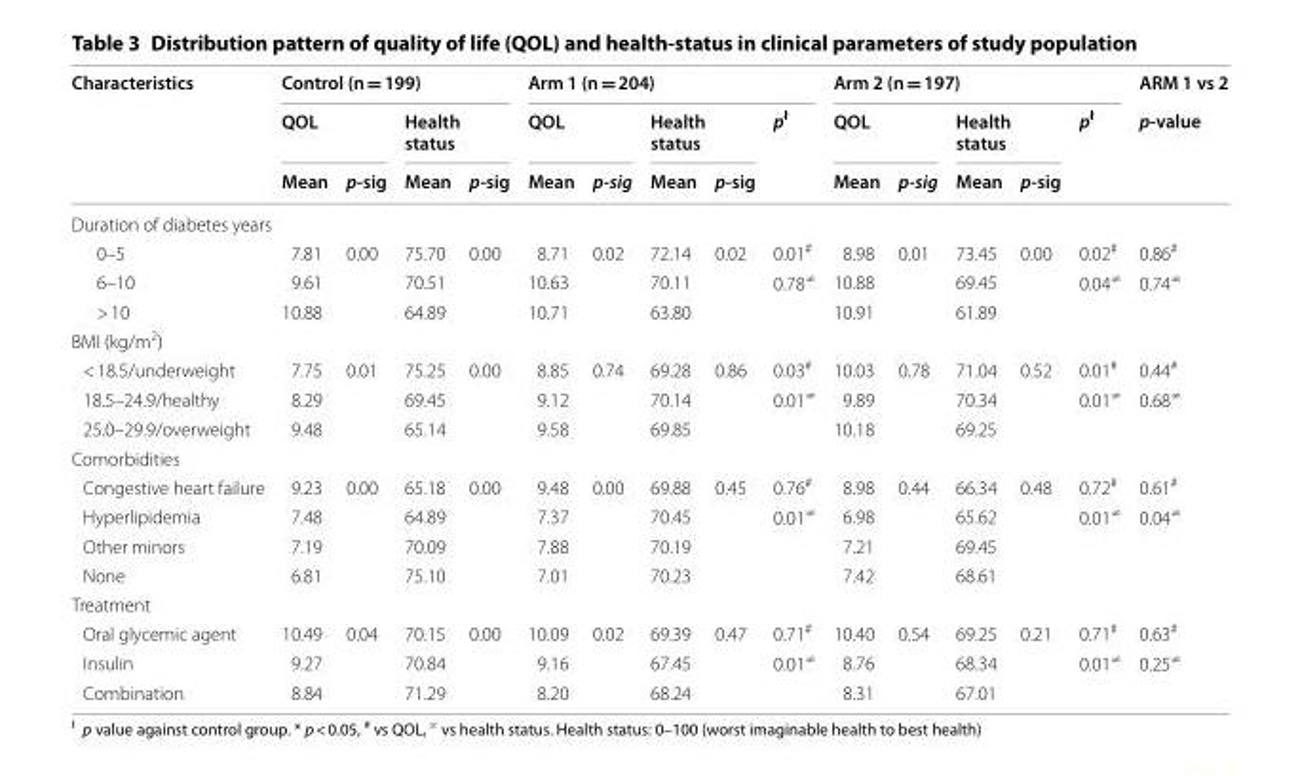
<table><thead><tr><td rowspan="3">Characteristics</td><td colspan="4">Control (n = 199)</td><td colspan="5">Arm 1 (n = 204)</td><td colspan="5">Arm 2 (n = 197)</td><td rowspan="3">ARM 1 vs 2 p-value</td></tr><tr><td colspan="2">QOL</td><td colspan="2">Health status</td><td colspan="2">QOL</td><td colspan="2">Health status</td><td rowspan="2">p<sup>ł</sup></td><td colspan="2">QOL</td><td colspan="2">Health status</td><td rowspan="2">p<sup>ł</sup></td></tr><tr><td>Mean</td><td>p-sig</td><td>Mean</td><td>p-sig</td><td>Mean</td><td>p-sig</td><td>Mean</td><td>p-sig</td><td>Mean</td><td>p-sig</td><td>Mean</td><td>p-sig</td></tr></thead><tbody><tr><td colspan="16">Duration of diabetes years</td></tr><tr><td>0–5</td><td>7.81</td><td>0.00</td><td>75.70</td><td>0.00</td><td>8.71</td><td>0.02</td><td>72.14</td><td>0.02</td><td>0.01<sup>#</sup></td><td>8.98</td><td>0.01</td><td>73.45</td><td>0.00</td><td>0.02<sup>#</sup></td><td>0.86<sup>#</sup></td></tr><tr><td>6–10</td><td>9.61</td><td></td><td>70.51</td><td></td><td>10.63</td><td></td><td>70.11</td><td></td><td>0.78<sup>≠</sup></td><td>10.88</td><td></td><td>69.45</td><td></td><td>0.04<sup>≠</sup></td><td>0.74<sup>≠</sup></td></tr><tr><td>&gt; 10</td><td>10.88</td><td></td><td>64.89</td><td></td><td>10.71</td><td></td><td>63.80</td><td></td><td></td><td>10.91</td><td></td><td>61.89</td><td></td><td></td><td></td></tr><tr><td colspan="16">BMI (kg/m<sup>2</sup>)</td></tr><tr><td>&lt; 18.5/underweight</td><td>7.75</td><td>0.01</td><td>75.25</td><td>0.00</td><td>8.85</td><td>0.74</td><td>69.28</td><td>0.86</td><td>0.03<sup>#</sup></td><td>10.03</td><td>0.78</td><td>71.04</td><td>0.52</td><td>0.01<sup>#</sup></td><td>0.44<sup>#</sup></td></tr><tr><td>18.5–24.9/healthy</td><td>8.29</td><td></td><td>69.45</td><td></td><td>9.12</td><td></td><td>70.14</td><td></td><td>0.01<sup>≠</sup></td><td>9.89</td><td></td><td>70.34</td><td></td><td>0.01<sup>≠</sup></td><td>0.68<sup>≠</sup></td></tr><tr><td>25.0–29.9/overweight</td><td>9.48</td><td></td><td>65.14</td><td></td><td>9.58</td><td></td><td>69.85</td><td></td><td></td><td>10.18</td><td></td><td>69.25</td><td></td><td></td><td></td></tr><tr><td colspan="16">Comorbidities</td></tr><tr><td>Congestive heart failure</td><td>9.23</td><td>0.00</td><td>65.18</td><td>0.00</td><td>9.48</td><td>0.00</td><td>69.88</td><td>0.45</td><td>0.76<sup>#</sup></td><td>8.98</td><td>0.44</td><td>66.34</td><td>0.48</td><td>0.72<sup>#</sup></td><td>0.61<sup>#</sup></td></tr><tr><td>Hyperlipidemia</td><td>7.48</td><td></td><td>64.89</td><td></td><td>7.37</td><td></td><td>70.45</td><td></td><td>0.01<sup>≠</sup></td><td>6.98</td><td></td><td>65.62</td><td></td><td>0.01<sup>≠</sup></td><td>0.04<sup>≠</sup></td></tr><tr><td>Other minors</td><td>7.19</td><td></td><td>70.09</td><td></td><td>7.88</td><td></td><td>70.19</td><td></td><td></td><td>7.21</td><td></td><td>69.45</td><td></td><td></td><td></td></tr><tr><td>None</td><td>6.81</td><td></td><td>75.10</td><td></td><td>7.01</td><td></td><td>70.23</td><td></td><td></td><td>7.42</td><td></td><td>68.61</td><td></td><td></td><td></td></tr><tr><td colspan="16">Treatment</td></tr><tr><td>Oral glycemic agent</td><td>10.49</td><td>0.04</td><td>70.15</td><td>0.00</td><td>10.09</td><td>0.02</td><td>69.39</td><td>0.47</td><td>0.71<sup>#</sup></td><td>10.40</td><td>0.54</td><td>69.25</td><td>0.21</td><td>0.71<sup>#</sup></td><td>0.63<sup>#</sup></td></tr><tr><td>Insulin</td><td>9.27</td><td></td><td>70.84</td><td></td><td>9.16</td><td></td><td>67.45</td><td></td><td>0.01<sup>≠</sup></td><td>8.76</td><td></td><td>68.34</td><td></td><td>0.01<sup>≠</sup></td><td>0.25<sup>≠</sup></td></tr><tr><td>Combination</td><td>8.84</td><td></td><td>71.29</td><td></td><td>8.20</td><td></td><td>68.24</td><td></td><td></td><td>8.31</td><td></td><td>67.01</td><td></td><td></td><td></td></tr></tbody></table>